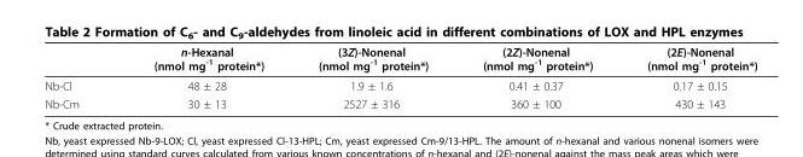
<table><thead><tr><td></td><td>n-Hexanal (nmol mg<sup>-1</sup> protein*)</td><td>(3Z)-Nonenal (nmol mg<sup>-1</sup> protein*)</td><td>(2Z)-Nonenal (nmol mg<sup>-1</sup> protein*)</td><td>(2E)-Nonenal (nmol mg<sup>-1</sup> protein*)</td></tr></thead><tbody><tr><td>Nb-Cl</td><td>48 ± 28</td><td>1.9 ± 1.6</td><td>0.41 ± 0.37</td><td>0.17 ± 0.15</td></tr><tr><td>Nb-Cm</td><td>30 ± 13</td><td>2527 ± 316</td><td>360 ± 100</td><td>430 ± 143</td></tr></tbody></table>